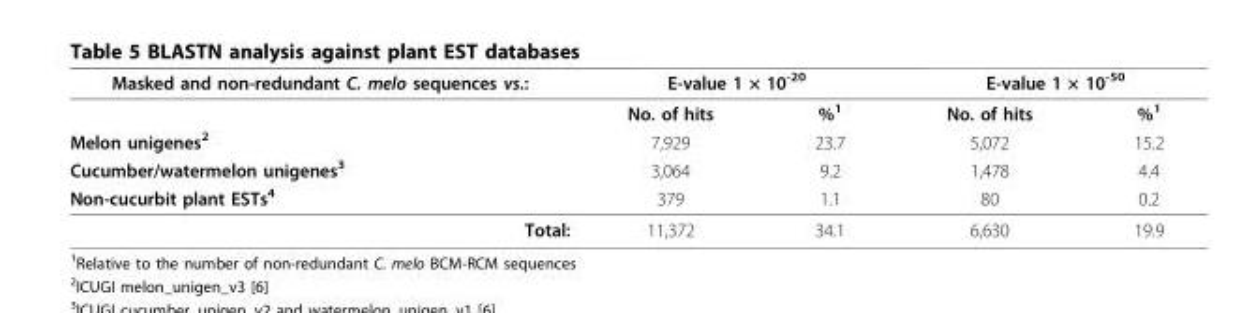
<table><thead><tr><td rowspan="2">Masked and non-redundant C. melo sequences vs.:</td><td colspan="2">E-value 1 × 10<sup>-20</sup></td><td colspan="2">E-value 1 × 10<sup>-50</sup></td></tr><tr><td>No. of hits</td><td>%<sup>1</sup></td><td>No. of hits</td><td>%<sup>1</sup></td></tr></thead><tbody><tr><td>Melon unigenes<sup>2</sup></td><td>7,929</td><td>23.7</td><td>5,072</td><td>15.2</td></tr><tr><td>Cucumber/watermelon unigenes<sup>3</sup></td><td>3,064</td><td>9.2</td><td>1,478</td><td>4.4</td></tr><tr><td>Non-cucurbit plant ESTs<sup>4</sup></td><td>379</td><td>1.1</td><td>80</td><td>0.2</td></tr><tr><td>Total:</td><td>11,372</td><td>34.1</td><td>6,630</td><td>19.9</td></tr></tbody></table>